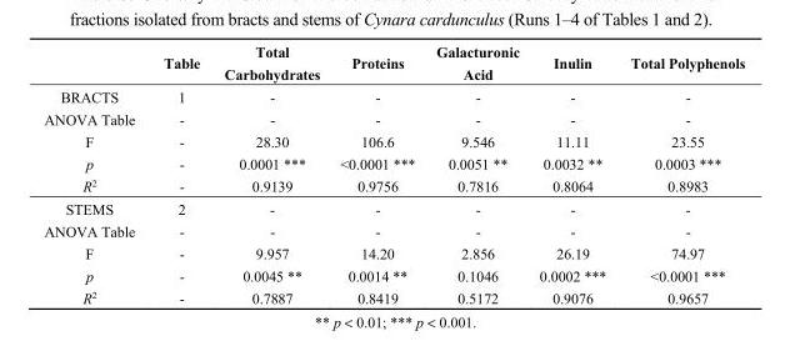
<table><thead><tr><td></td><td>Table</td><td>Total Carbohydrates</td><td>Proteins</td><td>Galacturonic Acid</td><td>Inulin</td><td>Total Polyphenols</td></tr></thead><tbody><tr><td>BRACTS</td><td>1</td><td>-</td><td>-</td><td>-</td><td>-</td><td>-</td></tr><tr><td>ANOVA Table</td><td>-</td><td>-</td><td>-</td><td>-</td><td>-</td><td>-</td></tr><tr><td>F</td><td>-</td><td>28.30</td><td>106.6</td><td>9.546</td><td>11.11</td><td>23.55</td></tr><tr><td>p</td><td>-</td><td>0.0001 ***</td><td>&lt;0.0001 ***</td><td>0.0051 **</td><td>0.0032 **</td><td>0.0003 ***</td></tr><tr><td>R<sup>2</sup></td><td>-</td><td>0.9139</td><td>0.9756</td><td>0.7816</td><td>0.8064</td><td>0.8983</td></tr><tr><td>STEMS</td><td>2</td><td>-</td><td>-</td><td>-</td><td>-</td><td>-</td></tr><tr><td>ANOVA Table</td><td>-</td><td>-</td><td>-</td><td>-</td><td>-</td><td>-</td></tr><tr><td>F</td><td>-</td><td>9.957</td><td>14.20</td><td>2.856</td><td>26.19</td><td>74.97</td></tr><tr><td>p</td><td>-</td><td>0.0045 **</td><td>0.0014 **</td><td>0.1046</td><td>0.0002 ***</td><td>&lt;0.0001 ***</td></tr><tr><td>R<sup>2</sup></td><td>-</td><td>0.7887</td><td>0.8419</td><td>0.5172</td><td>0.9076</td><td>0.9657</td></tr></tbody></table>